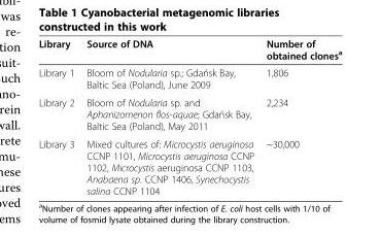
<table><thead><tr><td>Library</td><td>Source of DNA</td><td>Number of obtained clones<sup>a</sup></td></tr></thead><tbody><tr><td>Library 1</td><td>Bloom of Nodularia sp.; Gdańsk Bay, Baltic Sea (Poland), June 2009</td><td>1,806</td></tr><tr><td>Library 2</td><td>Bloom of Nodularia sp. and Aphanizomenon flos-aquae; Gdańsk Bay, Baltic Sea (Poland), May 2011</td><td>2,234</td></tr><tr><td>Library 3</td><td>Mixed cultures of: Microcystis aeruginosa CCNP 1101, Microcystis aeruginosa CCNP 1102, Microcystis aeruginosa CCNP 1103, Anabaena sp. CCNP 1406, Synechocystis salina CCNP 1104</td><td>~30,000</td></tr></tbody></table>